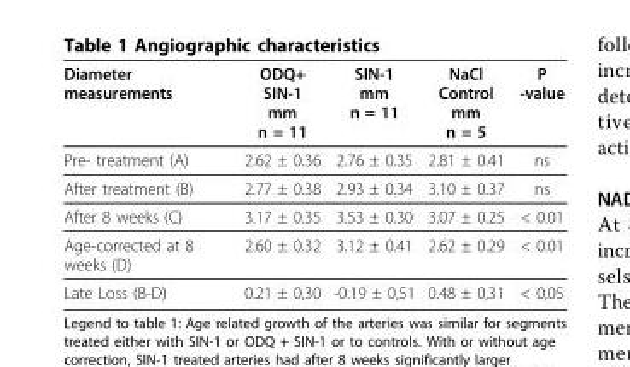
<table><thead><tr><td>Diameter measurements</td><td>ODQ+ SIN-1 mm n = 11</td><td>SIN-1 mm n = 11</td><td>NaCl Control mm n = 5</td><td>P -value</td></tr></thead><tbody><tr><td>Pre- treatment (A)</td><td>2.62 ± 0.36</td><td>2.76 ± 0.35</td><td>2.81 ± 0.41</td><td>ns</td></tr><tr><td>After treatment (B)</td><td>2.77 ± 0.38</td><td>2.93 ± 0.34</td><td>3.10 ± 0.37</td><td>ns</td></tr><tr><td>After 8 weeks (C)</td><td>3.17 ± 0.35</td><td>3.53 ± 0.30</td><td>3.07 ± 0.25</td><td>&lt; 0.01</td></tr><tr><td>Age-corrected at 8 weeks (D)</td><td>2.60 ± 0.32</td><td>3.12 ± 0.41</td><td>2.62 ± 0.29</td><td>&lt; 0.01</td></tr><tr><td>Late Loss (B-D)</td><td>0.21 ± 0,30</td><td>-0.19 ± 0,51</td><td>0.48 ± 0,31</td><td>&lt; 0,05</td></tr></tbody></table>